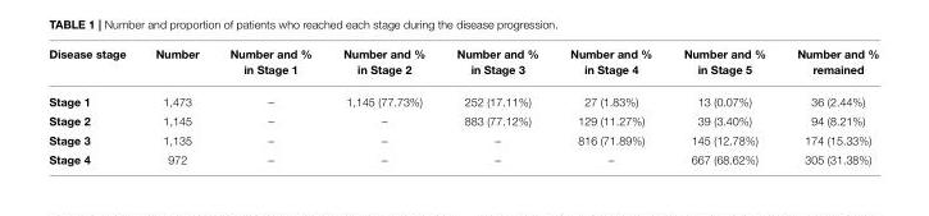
<table><thead><tr><td>Disease stage</td><td>Number</td><td>Number and % in Stage 1</td><td>Number and % in Stage 2</td><td>Number and % in Stage 3</td><td>Number and % in Stage 4</td><td>Number and % in Stage 5</td><td>Number and % remained</td></tr></thead><tbody><tr><td>Stage 1</td><td>1,473</td><td>–</td><td>1,145 (77.73%)</td><td>252 (17.11%)</td><td>27 (1.83%)</td><td>13 (0.07%)</td><td>36 (2.44%)</td></tr><tr><td>Stage 2</td><td>1,145</td><td>–</td><td>–</td><td>883 (77.12%)</td><td>129 (11.27%)</td><td>39 (3.40%)</td><td>94 (8.21%)</td></tr><tr><td>Stage 3</td><td>1,135</td><td>–</td><td>–</td><td>–</td><td>816 (71.89%)</td><td>145 (12.78%)</td><td>174 (15.33%)</td></tr><tr><td>Stage 4</td><td>972</td><td>–</td><td>–</td><td>–</td><td>–</td><td>667 (68.62%)</td><td>305 (31.38%)</td></tr></tbody></table>